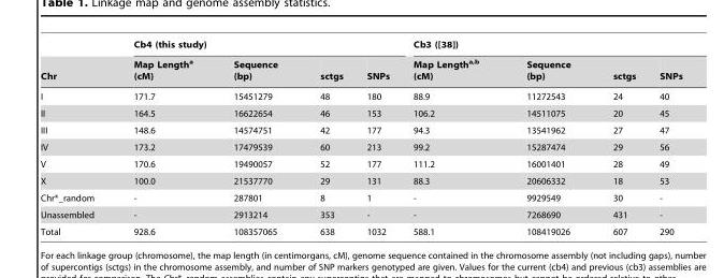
<table><thead><tr><td rowspan="2">Chr</td><td colspan="4">Cb4 (this study)</td><td colspan="4">Cb3 ([38])</td></tr><tr><td>Map Length<sup>a</sup> (cM)</td><td>Sequence (bp)</td><td>sctgs</td><td>SNPs</td><td>Map Length<sup>a,</sup>b (cM)</td><td>Sequence (bp)</td><td>sctgs</td><td>SNPs</td></tr></thead><tbody><tr><td>I</td><td>171.7</td><td>15451279</td><td>48</td><td>180</td><td>88.9</td><td>11272543</td><td>24</td><td>40</td></tr><tr><td>II</td><td>164.5</td><td>16622654</td><td>46</td><td>153</td><td>106.2</td><td>14511075</td><td>20</td><td>45</td></tr><tr><td>III</td><td>148.6</td><td>14574751</td><td>42</td><td>177</td><td>94.3</td><td>13541962</td><td>27</td><td>47</td></tr><tr><td>IV</td><td>173.2</td><td>17479539</td><td>60</td><td>213</td><td>99.2</td><td>15287474</td><td>29</td><td>56</td></tr><tr><td>V</td><td>170.6</td><td>19490057</td><td>52</td><td>177</td><td>111.2</td><td>16001401</td><td>28</td><td>49</td></tr><tr><td>X</td><td>100.0</td><td>21537770</td><td>29</td><td>131</td><td>88.3</td><td>20606332</td><td>18</td><td>53</td></tr><tr><td>Chr*_random</td><td>-</td><td>287801</td><td>8</td><td>1</td><td>-</td><td>9929549</td><td>30</td><td>-</td></tr><tr><td>Unassembled</td><td>-</td><td>2913214</td><td>353</td><td>-</td><td>-</td><td>7268690</td><td>431</td><td>-</td></tr><tr><td>Total</td><td>928.6</td><td>108357065</td><td>638</td><td>1032</td><td>588.1</td><td>108419026</td><td>607</td><td>290</td></tr></tbody></table>